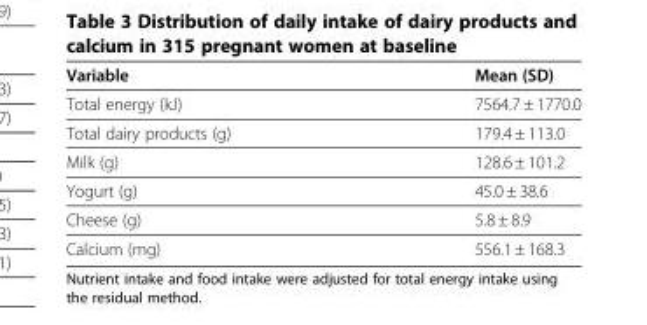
<table><thead><tr><td>Variable</td><td>Mean (SD)</td></tr></thead><tbody><tr><td>Total energy (kJ)</td><td>7564.7 ± 1770.0</td></tr><tr><td>Total dairy products (g)</td><td>179.4 ± 113.0</td></tr><tr><td>Milk (g)</td><td>128.6 ± 101.2</td></tr><tr><td>Yogurt (g)</td><td>45.0 ± 38.6</td></tr><tr><td>Cheese (g)</td><td>5.8 ± 8.9</td></tr><tr><td>Calcium (mg)</td><td>556.1 ± 168.3</td></tr></tbody></table>